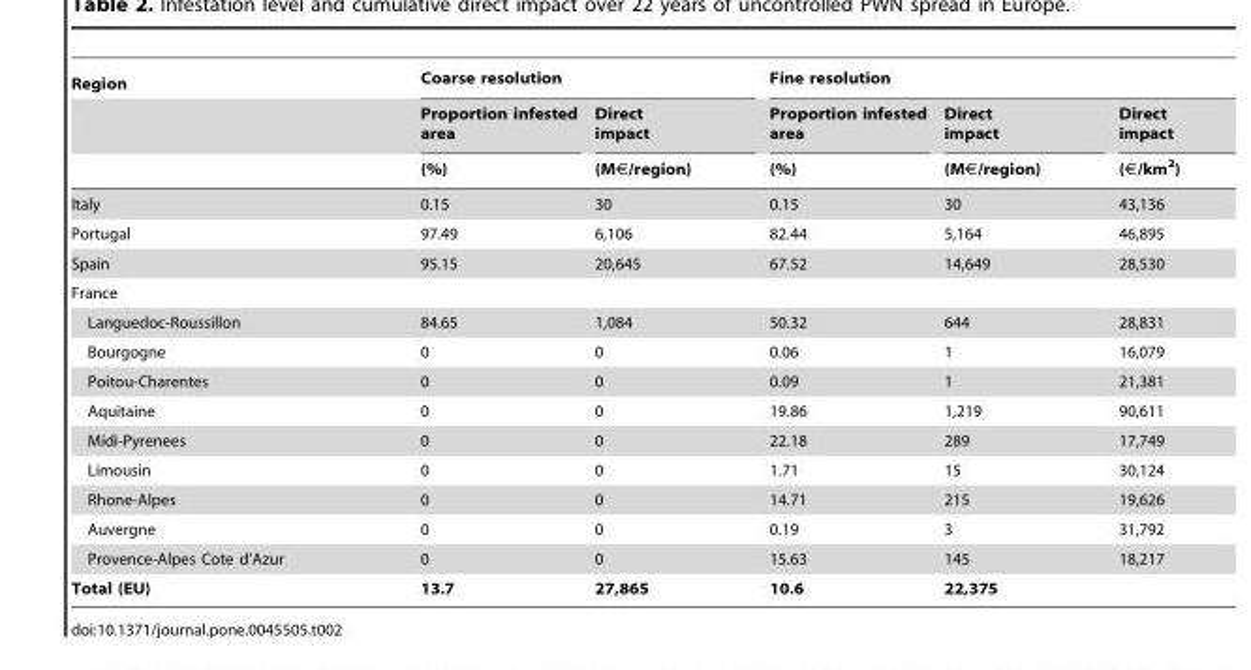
<table><thead><tr><td rowspan="3">Region</td><td colspan="2">Coarse resolution</td><td colspan="3">Fine resolution</td></tr><tr><td rowspan="2">Proportion infested area (%)</td><td rowspan="2">Direct impact (M€/region)</td><td rowspan="2">Proportion infested area (%)</td><td rowspan="2">Direct impact (M€/region)</td><td rowspan="2">Direct impact (€/km<sup>2</sup>)</td></tr><tr></tr></thead><tbody><tr><td>Italy</td><td>0.15</td><td>30</td><td>0.15</td><td>30</td><td>43,136</td></tr><tr><td>Portugal</td><td>97.49</td><td>6,106</td><td>82.44</td><td>5,164</td><td>46,895</td></tr><tr><td>Spain</td><td>95.15</td><td>20,645</td><td>67.52</td><td>14,649</td><td>28,530</td></tr><tr><td colspan="6">France</td></tr><tr><td>Languedoc-Roussillon</td><td>84.65</td><td>1,084</td><td>50.32</td><td>644</td><td>28,831</td></tr><tr><td>Bourgogne</td><td>0</td><td>0</td><td>0.06</td><td>1</td><td>16,079</td></tr><tr><td>Poitou-Charentes</td><td>0</td><td>0</td><td>0.09</td><td>1</td><td>21,381</td></tr><tr><td>Aquitaine</td><td>0</td><td>0</td><td>19.86</td><td>1,219</td><td>90,611</td></tr><tr><td>Midi-Pyrenees</td><td>0</td><td>0</td><td>22.18</td><td>289</td><td>17,749</td></tr><tr><td>Limousin</td><td>0</td><td>0</td><td>1.71</td><td>15</td><td>30,124</td></tr><tr><td>Rhone-Alpes</td><td>0</td><td>0</td><td>14.71</td><td>215</td><td>19,626</td></tr><tr><td>Auvergne</td><td>0</td><td>0</td><td>0.19</td><td>3</td><td>31,792</td></tr><tr><td>Provence-Alpes Cote d’Azur</td><td>0</td><td>0</td><td>15.63</td><td>145</td><td>18,217</td></tr><tr><td>Total (EU)</td><td>13.7</td><td>27,865</td><td>10.6</td><td>22,375</td><td></td></tr></tbody></table>